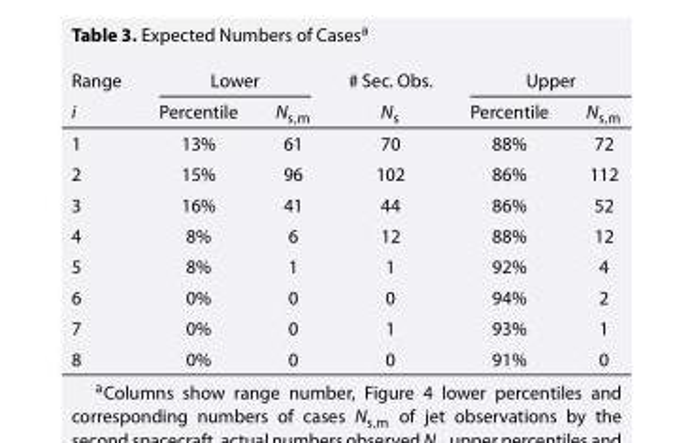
<table><thead><tr><td rowspan="2">Range i</td><td colspan="2">Lower</td><td rowspan="2"># Sec. Obs. N<sub>s</sub></td><td colspan="2">Upper</td></tr><tr><td>Percentile</td><td>N<sub>s,m</sub></td><td>Percentile</td><td>N<sub>s,m</sub></td></tr></thead><tbody><tr><td>1</td><td>13%</td><td>61</td><td>70</td><td>88%</td><td>72</td></tr><tr><td>2</td><td>15%</td><td>96</td><td>102</td><td>86%</td><td>112</td></tr><tr><td>3</td><td>16%</td><td>41</td><td>44</td><td>86%</td><td>52</td></tr><tr><td>4</td><td>8%</td><td>6</td><td>12</td><td>88%</td><td>12</td></tr><tr><td>5</td><td>8%</td><td>1</td><td>1</td><td>92%</td><td>4</td></tr><tr><td>6</td><td>0%</td><td>0</td><td>0</td><td>94%</td><td>2</td></tr><tr><td>7</td><td>0%</td><td>0</td><td>1</td><td>93%</td><td>1</td></tr><tr><td>8</td><td>0%</td><td>0</td><td>0</td><td>91%</td><td>0</td></tr></tbody></table>